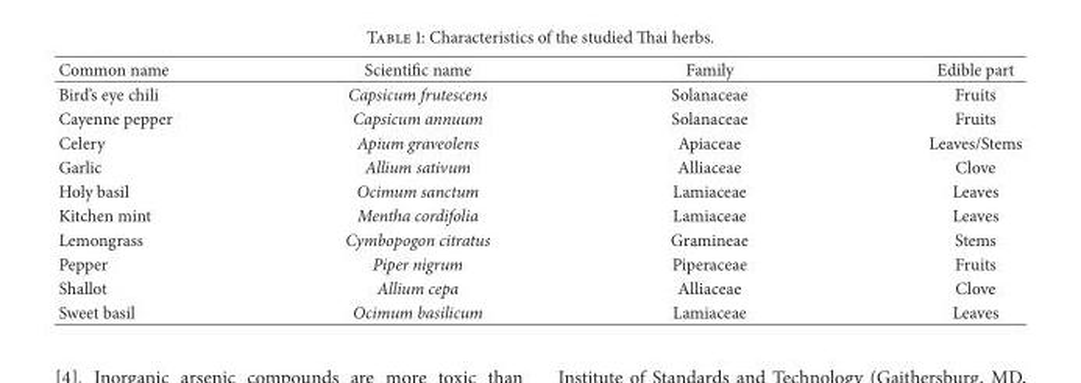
<table><thead><tr><td>Common name</td><td>Scientific name</td><td>Family</td><td>Edible part</td></tr></thead><tbody><tr><td>Bird’s eye chili</td><td>Capsicum frutescens</td><td>Solanaceae</td><td>Fruits</td></tr><tr><td>Cayenne pepper</td><td>Capsicum annuum</td><td>Solanaceae</td><td>Fruits</td></tr><tr><td>Celery</td><td>Apium graveolens</td><td>Apiaceae</td><td>Leaves/Stems</td></tr><tr><td>Garlic</td><td>Allium sativum</td><td>Alliaceae</td><td>Clove</td></tr><tr><td>Holy basil</td><td>Ocimum sanctum</td><td>Lamiaceae</td><td>Leaves</td></tr><tr><td>Kitchen mint</td><td>Mentha cordifolia</td><td>Lamiaceae</td><td>Leaves</td></tr><tr><td>Lemongrass</td><td>Cymbopogon citratus</td><td>Gramineae</td><td>Stems</td></tr><tr><td>Pepper</td><td>Piper nigrum</td><td>Piperaceae</td><td>Fruits</td></tr><tr><td>Shallot</td><td>Allium cepa</td><td>Alliaceae</td><td>Clove</td></tr><tr><td>Sweet basil</td><td>Ocimum basilicum</td><td>Lamiaceae</td><td>Leaves</td></tr></tbody></table>